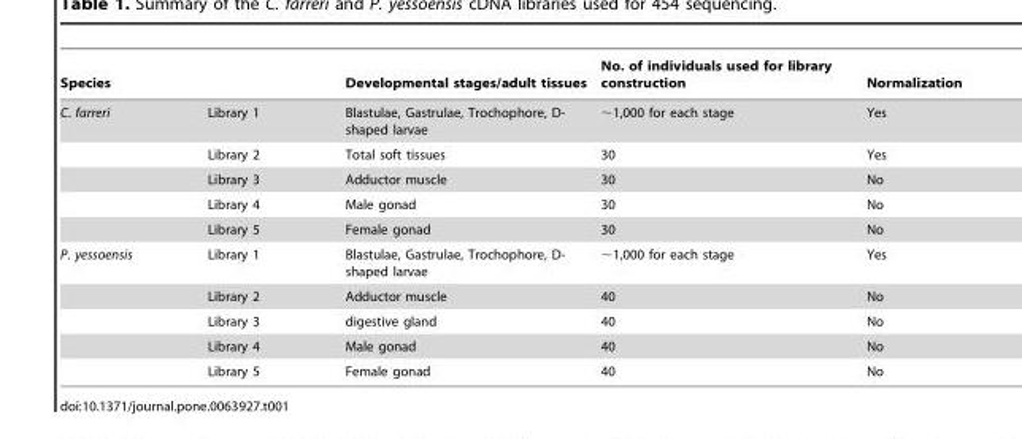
<table><thead><tr><td>Species</td><td></td><td>Developmental stages/adult tissues</td><td>No. of individuals used for library construction</td><td>Normalization</td></tr></thead><tbody><tr><td rowspan="5">C. farreri</td><td>Library 1</td><td>Blastulae, Gastrulae, Trochophore, D- shaped larvae</td><td>∼1,000 for each stage</td><td>Yes</td></tr><tr><td>Library 2</td><td>Total soft tissues</td><td>30</td><td>Yes</td></tr><tr><td>Library 3</td><td>Adductor muscle</td><td>30</td><td>No</td></tr><tr><td>Library 4</td><td>Male gonad</td><td>30</td><td>No</td></tr><tr><td>Library 5</td><td>Female gonad</td><td>30</td><td>No</td></tr><tr><td rowspan="5">P. yessoensis</td><td>Library 1</td><td>Blastulae, Gastrulae, Trochophore, D- shaped larvae</td><td>∼1,000 for each stage</td><td>Yes</td></tr><tr><td>Library 2</td><td>Adductor muscle</td><td>40</td><td>No</td></tr><tr><td>Library 3</td><td>digestive gland</td><td>40</td><td>No</td></tr><tr><td>Library 4</td><td>Male gonad</td><td>40</td><td>No</td></tr><tr><td>Library 5</td><td>Female gonad</td><td>40</td><td>No</td></tr></tbody></table>